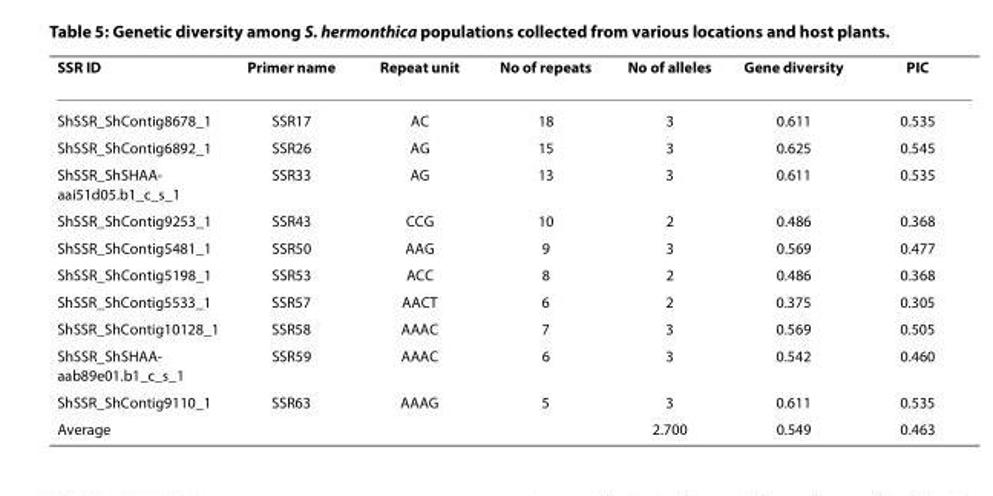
<table><thead><tr><td>SSR ID</td><td>Primer name</td><td>Repeat unit</td><td>No of repeats</td><td>No of alleles</td><td>Gene diversity</td><td>PIC</td></tr></thead><tbody><tr><td>ShSSR_ShContig8678_1</td><td>SSR17</td><td>AC</td><td>18</td><td>3</td><td>0.611</td><td>0.535</td></tr><tr><td>ShSSR_ShContig6892_1</td><td>SSR26</td><td>AG</td><td>15</td><td>3</td><td>0.625</td><td>0.545</td></tr><tr><td>ShSSR_ShSHAA- aai51d05.b1_c_s_1</td><td>SSR33</td><td>AG</td><td>13</td><td>3</td><td>0.611</td><td>0.535</td></tr><tr><td>ShSSR_ShContig9253_1</td><td>SSR43</td><td>CCG</td><td>10</td><td>2</td><td>0.486</td><td>0.368</td></tr><tr><td>ShSSR_ShContig5481_1</td><td>SSR50</td><td>AAG</td><td>9</td><td>3</td><td>0.569</td><td>0.477</td></tr><tr><td>ShSSR_ShContig5198_1</td><td>SSR53</td><td>ACC</td><td>8</td><td>2</td><td>0.486</td><td>0.368</td></tr><tr><td>ShSSR_ShContig5533_1</td><td>SSR57</td><td>AACT</td><td>6</td><td>2</td><td>0.375</td><td>0.305</td></tr><tr><td>ShSSR_ShContig10128_1</td><td>SSR58</td><td>AAAC</td><td>7</td><td>3</td><td>0.569</td><td>0.505</td></tr><tr><td>ShSSR_ShSHAA- aab89e01.b1_c_s_1</td><td>SSR59</td><td>AAAC</td><td>6</td><td>3</td><td>0.542</td><td>0.460</td></tr><tr><td>ShSSR_ShContig9110_1</td><td>SSR63</td><td>AAAG</td><td>5</td><td>3</td><td>0.611</td><td>0.535</td></tr><tr><td>Average</td><td></td><td></td><td></td><td>2.700</td><td>0.549</td><td>0.463</td></tr></tbody></table>